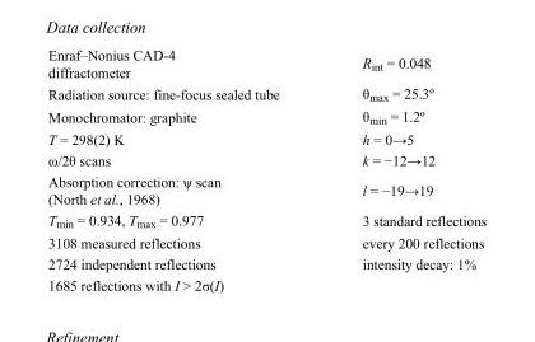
<table><tbody><tr><td>Enraf–Nonius CAD-4 diffractometer</td><td>R<sub>int</sub> = 0.048</td></tr><tr><td>Radiation source: fine-focus sealed tube</td><td>θ<sub>max</sub> = 25.3º</td></tr><tr><td>Monochromator: graphite</td><td>θ<sub>min</sub> = 1.2º</td></tr><tr><td>T = 298(2) K</td><td>h = 0→5</td></tr><tr><td>ω/2θ scans</td><td>k = −12→12</td></tr><tr><td>Absorption correction: ψ scan (North et al., 1968)</td><td>l = −19→19</td></tr><tr><td>T<sub>min</sub> = 0.934, T<sub>max</sub> = 0.977</td><td>3 standard reflections</td></tr><tr><td>3108 measured reflections</td><td>every 200 reflections</td></tr><tr><td>2724 independent reflections</td><td>intensity decay: 1%</td></tr><tr><td>1685 reflections with I &gt; 2σ(I)</td><td></td></tr></tbody></table>